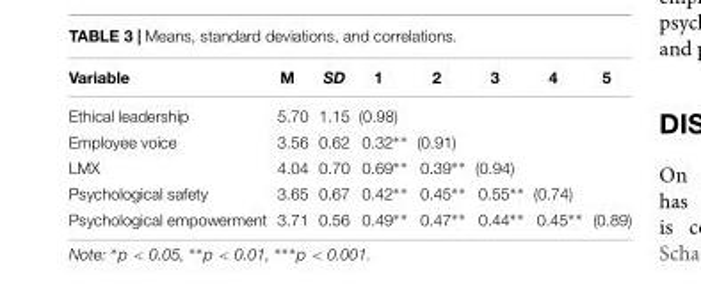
<table><thead><tr><td>Variable</td><td>M</td><td>SD</td><td>1</td><td>2</td><td>3</td><td>4</td><td>5</td></tr></thead><tbody><tr><td>Ethical leadership</td><td>5.70</td><td>1.15</td><td>(0.98)</td><td></td><td></td><td></td><td></td></tr><tr><td>Employee voice</td><td>3.56</td><td>0.62</td><td>0.32∗∗</td><td>(0.91)</td><td></td><td></td><td></td></tr><tr><td>LMX</td><td>4.04</td><td>0.70</td><td>0.69∗∗</td><td>0.39∗∗</td><td>(0.94)</td><td></td><td></td></tr><tr><td>Psychological safety</td><td>3.65</td><td>0.67</td><td>0.42∗∗</td><td>0.45∗∗</td><td>0.55∗∗</td><td>(0.74)</td><td></td></tr><tr><td>Psychological empowerment</td><td>3.71</td><td>0.56</td><td>0.49∗∗</td><td>0.47∗∗</td><td>0.44∗∗</td><td>0.45∗∗</td><td>(0.89)</td></tr></tbody></table>